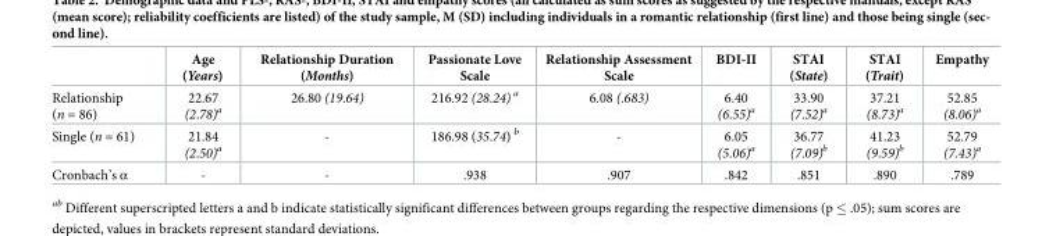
<table><thead><tr><td></td><td>Age (Years)</td><td>Relationship Duration (Months)</td><td>Passionate Love Scale</td><td>Relationship Assessment Scale</td><td>BDI-II</td><td>STAI (State)</td><td>STAI (Trait)</td><td>Empathy</td></tr></thead><tbody><tr><td>Relationship (n = 86)</td><td>22.67 (2.78)<sup>a</sup></td><td>26.80 (19.64)</td><td>216.92 (28.24) <sup>a</sup></td><td>6.08 (.683)</td><td>6.40 (6.55)<sup>a</sup></td><td>33.90 (7.52)<sup>a</sup></td><td>37.21 (8.73)<sup>a</sup></td><td>52.85 (8.06)<sup>a</sup></td></tr><tr><td>Single (n = 61)</td><td>21.84 (2.50)<sup>a</sup></td><td>-</td><td>186.98 (35.74) <sup>b</sup></td><td>-</td><td>6.05 (5.06)<sup>a</sup></td><td>36.77 (7.09)<sup>b</sup></td><td>41.23 (9.59)<sup>b</sup></td><td>52.79 (7.43)<sup>a</sup></td></tr><tr><td>Cronbach’s α</td><td>-</td><td>-</td><td>.938</td><td>.907</td><td>.842</td><td>.851</td><td>.890</td><td>.789</td></tr></tbody></table>